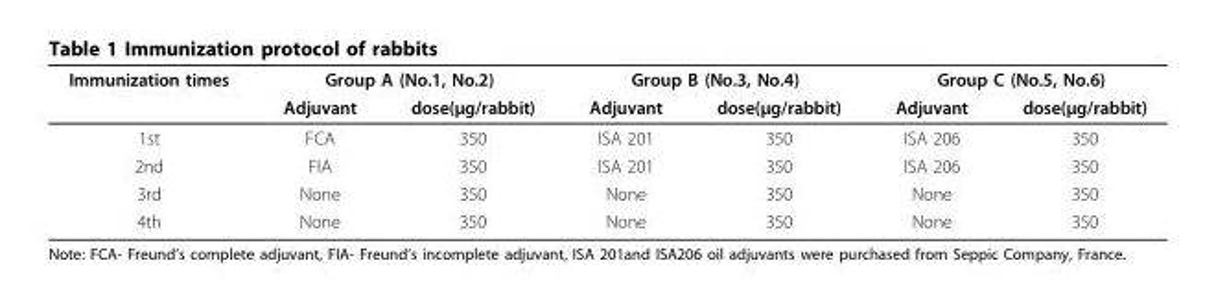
<table><thead><tr><td rowspan="2">Immunization times</td><td colspan="2">Group A (No.1, No.2)</td><td colspan="2">Group B (No.3, No.4)</td><td colspan="2">Group C (No.5, No.6)</td></tr><tr><td>Adjuvant</td><td>dose(μg/rabbit)</td><td>Adjuvant</td><td>dose(μg/rabbit)</td><td>Adjuvant</td><td>dose(μg/rabbit)</td></tr></thead><tbody><tr><td>1st</td><td>FCA</td><td>350</td><td>ISA 201</td><td>350</td><td>ISA 206</td><td>350</td></tr><tr><td>2nd</td><td>FIA</td><td>350</td><td>ISA 201</td><td>350</td><td>ISA 206</td><td>350</td></tr><tr><td>3rd</td><td>None</td><td>350</td><td>None</td><td>350</td><td>None</td><td>350</td></tr><tr><td>4th</td><td>None</td><td>350</td><td>None</td><td>350</td><td>None</td><td>350</td></tr></tbody></table>